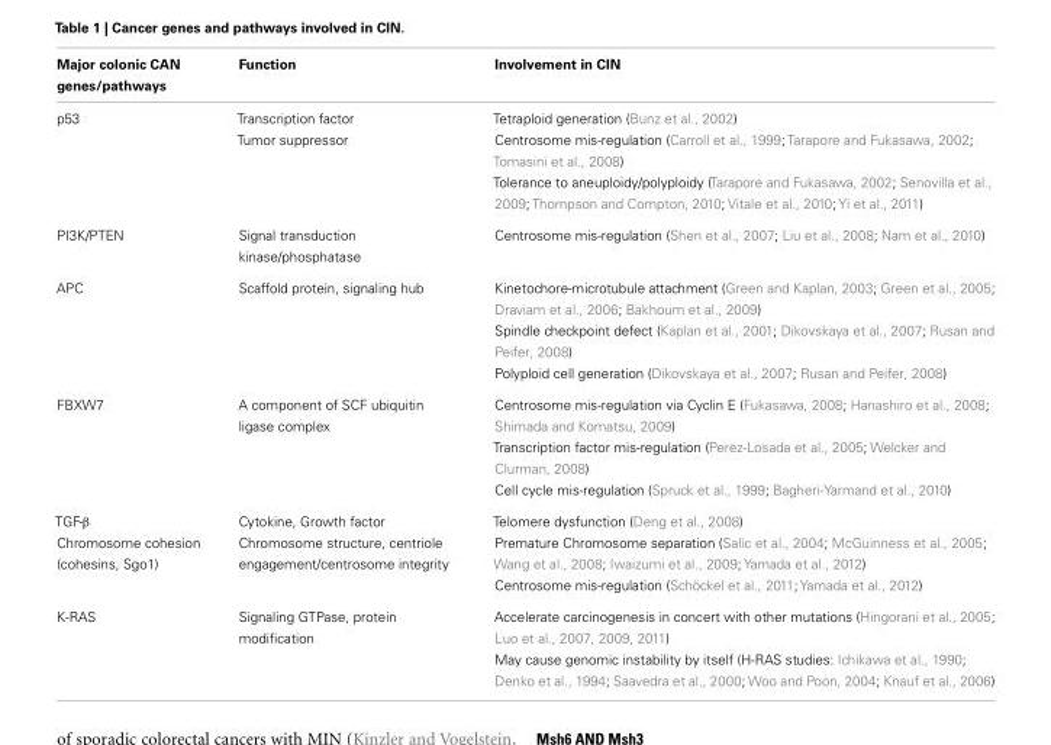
<table><thead><tr><td>Major colonic CAN genes/pathways</td><td>Function</td><td>Involvement in CIN</td></tr></thead><tbody><tr><td rowspan="3">p53</td><td>Transcription factor</td><td>Tetraploid generation (Bunz et al., 2002)</td></tr><tr><td>Tumor suppressor</td><td>Centrosome mis-regulation (Carroll et al., 1999; Tarapore and Fukasawa, 2002; Tomasini et al., 2008)</td></tr><tr><td></td><td>Tolerance to aneuploidy/polyploidy (Tarapore and Fukasawa, 2002; Senovilla et al., 2009; Thompson and Compton, 2010; Vitale et al., 2010; Yi et al., 2011)</td></tr><tr><td>PI3K/PTEN</td><td>Signal transduction kinase/phosphatase</td><td>Centrosome mis-regulation (Shen et al., 2007; Liu et al., 2008; Nam et al., 2010)</td></tr><tr><td rowspan="3">APC</td><td>Scaffold protein, signaling hub</td><td>Kinetochore-microtubule attachment (Green and Kaplan, 2003; Green et al., 2005; Draviam et al., 2006; Bakhoum et al., 2009)</td></tr><tr><td></td><td>Spindle checkpoint defect (Kaplan et al., 2001; Dikovskaya et al., 2007; Rusan and Peifer, 2008)</td></tr><tr><td></td><td>Polyploid cell generation (Dikovskaya et al., 2007; Rusan and Peifer, 2008)</td></tr><tr><td rowspan="3">FBXW7</td><td>A component of SCF ubiquitin ligase complex</td><td>Centrosome mis-regulation via Cyclin E (Fukasawa, 2008; Hanashiro et al., 2008; Shimada and Komatsu, 2009)</td></tr><tr><td></td><td>Transcription factor mis-regulation (Perez-Losada et al., 2005; Welcker and Clurman, 2008)</td></tr><tr><td></td><td>Cell cycle mis-regulation (Spruck et al., 1999; Bagheri-Yarmand et al., 2010)</td></tr><tr><td>TGF-β</td><td>Cytokine, Growth factor</td><td>Telomere dysfunction (Deng et al., 2008)</td></tr><tr><td rowspan="2">Chromosome cohesion (cohesins, Sgo1)</td><td>Chromosome structure, centriole engagement/centrosome integrity</td><td>Premature Chromosome separation (Salic et al., 2004; McGuinness et al., 2005; Wang et al., 2008; Iwaizumi et al., 2009; Yamada et al., 2012)</td></tr><tr><td></td><td>Centrosome mis-regulation (Schöckel et al., 2011; Yamada et al., 2012)</td></tr><tr><td rowspan="2">K-RAS</td><td>Signaling GTPase, protein modification</td><td>Accelerate carcinogenesis in concert with other mutations (Hingorani et al., 2005; Luo et al., 2007, 2009, 2011)</td></tr><tr><td></td><td>May cause genomic instability by itself (H-RAS studies: Ichikawa et al., 1990; Denko et al., 1994; Saavedra et al., 2000; Woo and Poon, 2004; Knauf et al., 2006)</td></tr></tbody></table>